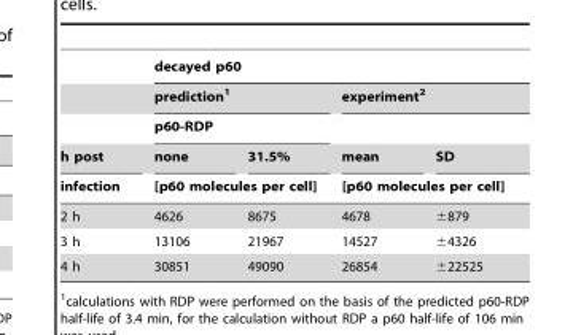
<table><thead><tr><td rowspan="5">h post infection</td><td colspan="4">decayed p60</td></tr><tr><td rowspan="2" colspan="2">prediction<sup>1</sup> p60-RDP</td><td colspan="2">experiment<sup>2</sup></td></tr><tr><td rowspan="2">mean</td><td rowspan="2">SD</td></tr><tr><td>none</td><td>31.5%</td></tr><tr><td colspan="2">[p60 molecules per cell]</td><td colspan="2">[p60 molecules per cell]</td></tr></thead><tbody><tr><td>2 h</td><td>4626</td><td>8675</td><td>4678</td><td>±879</td></tr><tr><td>3 h</td><td>13106</td><td>21967</td><td>14527</td><td>±4326</td></tr><tr><td>4 h</td><td>30851</td><td>49090</td><td>26854</td><td>±22525</td></tr></tbody></table>